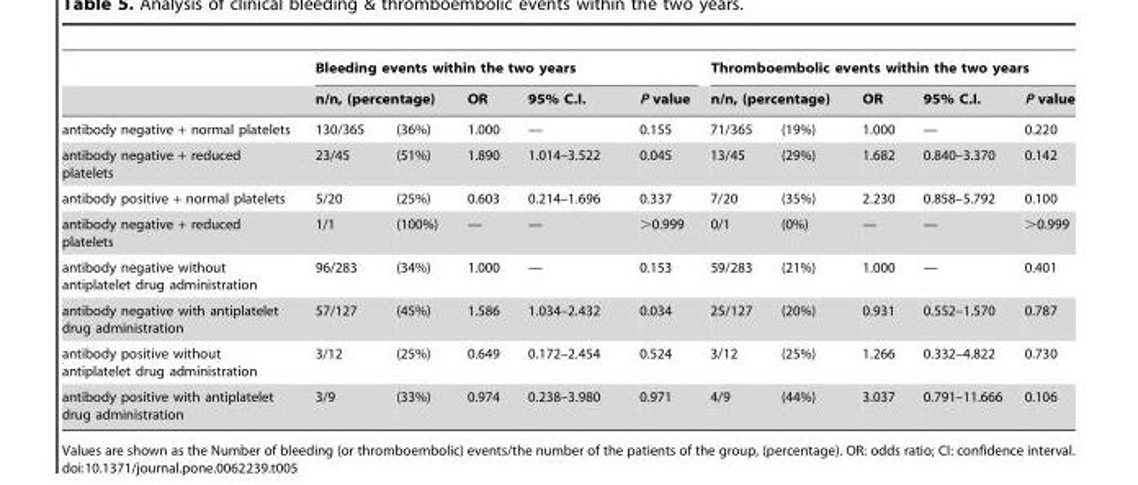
<table><thead><tr><td rowspan="3">antibody negative + normal platelets</td><td colspan="5">Bleeding events within the two years</td><td colspan="5">Thromboembolic events within the two years</td></tr><tr><td colspan="2">n/n, (percentage)</td><td rowspan="2">OR 1.000</td><td rowspan="2">95% C.I. —</td><td rowspan="2">P value 0.155</td><td colspan="2">n/n, (percentage)</td><td rowspan="2">OR 1.000</td><td rowspan="2">95% C.I. —</td><td rowspan="2">P value 0.220</td></tr><tr><td>130/365</td><td>(36%)</td><td>71/365</td><td>(19%)</td></tr></thead><tbody><tr><td>antibody negative + reduced platelets</td><td>23/45</td><td>(51%)</td><td>1.890</td><td>1.014–3.522</td><td>0.045</td><td>13/45</td><td>(29%)</td><td>1.682</td><td>0.840–3.370</td><td>0.142</td></tr><tr><td>antibody positive + normal platelets</td><td>5/20</td><td>(25%)</td><td>0.603</td><td>0.214–1.696</td><td>0.337</td><td>7/20</td><td>(35%)</td><td>2.230</td><td>0.858–5.792</td><td>0.100</td></tr><tr><td>antibody negative + reduced platelets</td><td>1/1</td><td>(100%)</td><td>—</td><td>—</td><td>&gt;0.999</td><td>0/1</td><td>(0%)</td><td>—</td><td>—</td><td>&gt;0.999</td></tr><tr><td>antibody negative without antiplatelet drug administration</td><td>96/283</td><td>(34%)</td><td>1.000</td><td>—</td><td>0.153</td><td>59/283</td><td>(21%)</td><td>1.000</td><td>—</td><td>0.401</td></tr><tr><td>antibody negative with antiplatelet drug administration</td><td>57/127</td><td>(45%)</td><td>1.586</td><td>1.034–2.432</td><td>0.034</td><td>25/127</td><td>(20%)</td><td>0.931</td><td>0.552–1.570</td><td>0.787</td></tr><tr><td>antibody positive without antiplatelet drug administration</td><td>3/12</td><td>(25%)</td><td>0.649</td><td>0.172–2.454</td><td>0.524</td><td>3/12</td><td>(25%)</td><td>1.266</td><td>0.332–4.822</td><td>0.730</td></tr><tr><td>antibody positive with antiplatelet drug administration</td><td>3/9</td><td>(33%)</td><td>0.974</td><td>0.238–3.980</td><td>0.971</td><td>4/9</td><td>(44%)</td><td>3.037</td><td>0.791–11.666</td><td>0.106</td></tr></tbody></table>